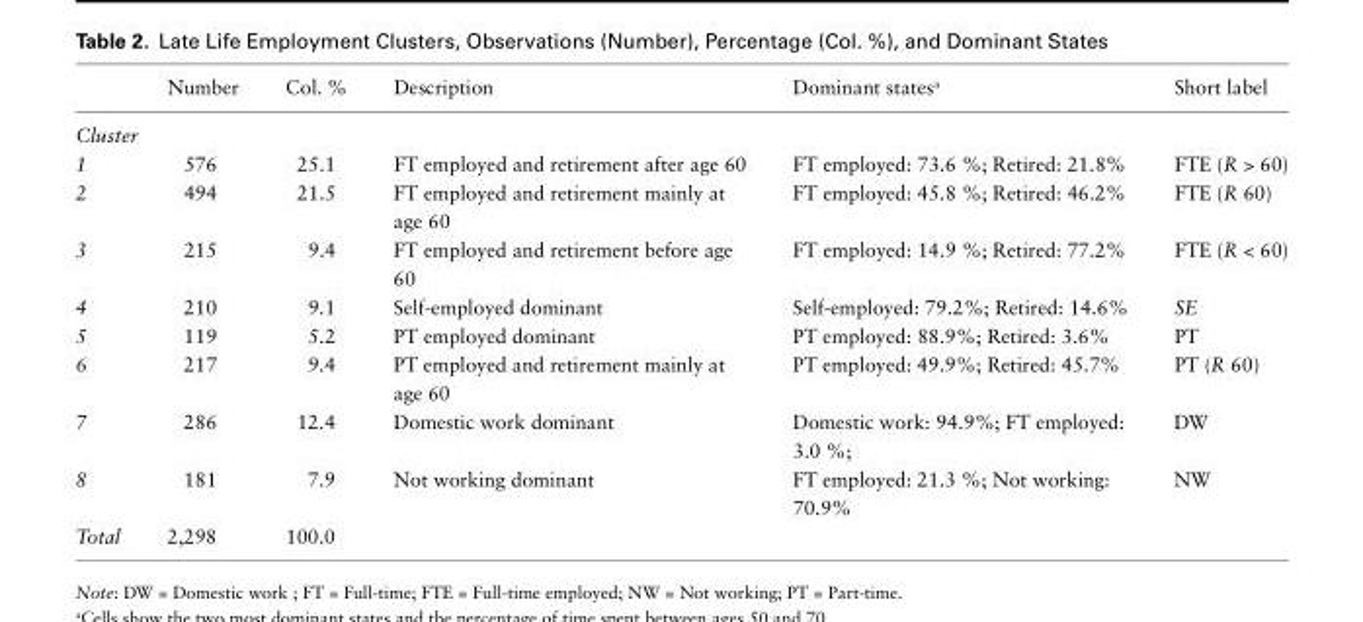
<table><thead><tr><td></td><td>Number</td><td>Col. %</td><td>Description</td><td>Dominant states<sup>a</sup></td><td>Short label</td></tr></thead><tbody><tr><td colspan="6">Cluster</td></tr><tr><td>1</td><td>576</td><td>25.1</td><td>FT employed and retirement after age 60</td><td>FT employed: 73.6 %; Retired: 21.8%</td><td>FTE (R &gt; 60)</td></tr><tr><td>2</td><td>494</td><td>21.5</td><td>FT employed and retirement mainly at age 60</td><td>FT employed: 45.8 %; Retired: 46.2%</td><td>FTE (R 60)</td></tr><tr><td>3</td><td>215</td><td>9.4</td><td>FT employed and retirement before age 60</td><td>FT employed: 14.9 %; Retired: 77.2%</td><td>FTE (R &lt; 60)</td></tr><tr><td>4</td><td>210</td><td>9.1</td><td>Self-employed dominant</td><td>Self-employed: 79.2%; Retired: 14.6%</td><td>SE</td></tr><tr><td>5</td><td>119</td><td>5.2</td><td>PT employed dominant</td><td>PT employed: 88.9%; Retired: 3.6%</td><td>PT</td></tr><tr><td>6</td><td>217</td><td>9.4</td><td>PT employed and retirement mainly at age 60</td><td>PT employed: 49.9%; Retired: 45.7%</td><td>PT (R 60)</td></tr><tr><td>7</td><td>286</td><td>12.4</td><td>Domestic work dominant</td><td>Domestic work: 94.9%; FT employed: 3.0 %;</td><td>DW</td></tr><tr><td>8</td><td>181</td><td>7.9</td><td>Not working dominant</td><td>FT employed: 21.3 %; Not working: 70.9%</td><td>NW</td></tr><tr><td>Total</td><td>2,298</td><td>100.0</td><td></td><td></td><td></td></tr></tbody></table>